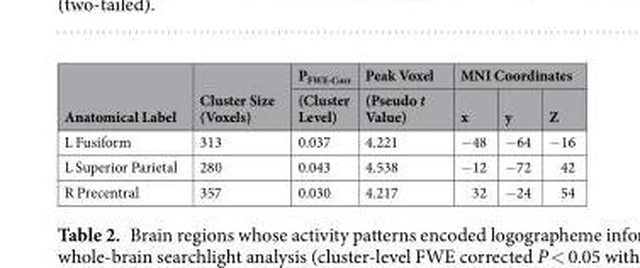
<table><thead><tr><td rowspan="2">Anatomical Label</td><td rowspan="2">Cluster Size (Voxels)</td><td rowspan="2">P<sub>FWE-Corr</sub> (Cluster Level)</td><td rowspan="2">Peak Voxel (Pseudo t Value)</td><td colspan="3">MNI Coordinates</td></tr><tr><td>x</td><td>y</td><td>Z</td></tr></thead><tbody><tr><td>L Fusiform</td><td>313</td><td>0.037</td><td>4.221</td><td>−48</td><td>−64</td><td>−16</td></tr><tr><td>L Superior Parietal</td><td>280</td><td>0.043</td><td>4.538</td><td>−12</td><td>−72</td><td>42</td></tr><tr><td>R Precentral</td><td>357</td><td>0.030</td><td>4.217</td><td>32</td><td>−24</td><td>54</td></tr></tbody></table>